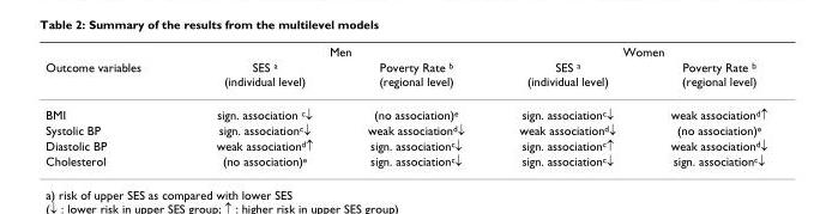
<table><thead><tr><td rowspan="2">Outcome variables</td><td colspan="2">Men</td><td colspan="2">Women</td></tr><tr><td>SES <sup>a</sup> (individual level)</td><td>Poverty Rate <sup>b</sup> (regional level)</td><td>SES <sup>a</sup> (individual level)</td><td>Poverty Rate <sup>b</sup> (regional level)</td></tr></thead><tbody><tr><td>BMI</td><td>sign. association <sup>c</sup>↓</td><td>(no association)<sup>e</sup></td><td>sign. association<sup>c</sup>↓</td><td>weak association<sup>d</sup>↑</td></tr><tr><td>Systolic BP</td><td>sign. association<sup>c</sup>↓</td><td>weak association<sup>d</sup>↓</td><td>weak association<sup>d</sup>↓</td><td>(no association)<sup>e</sup></td></tr><tr><td>Diastolic BP</td><td>weak association<sup>d</sup>↑</td><td>sign. association<sup>c</sup>↓</td><td>sign. association<sup>c</sup>↑</td><td>weak association<sup>d</sup>↓</td></tr><tr><td>Cholesterol</td><td>(no association)<sup>e</sup></td><td>sign. association<sup>c</sup>↓</td><td>sign. association<sup>c</sup>↓</td><td>sign. association<sup>c</sup>↓</td></tr></tbody></table>